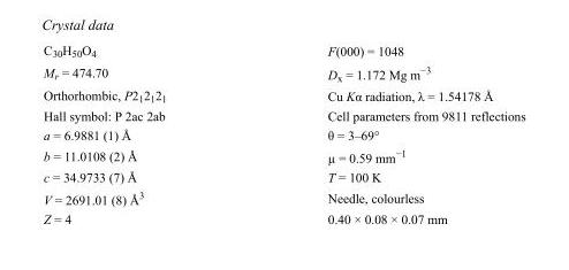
<table><tbody><tr><td>C<sub>30</sub>H<sub>50</sub>O<sub>4</sub></td><td>F(000) = 1048</td></tr><tr><td>M<sub>r</sub> = 474.70</td><td>D<sub>x</sub> = 1.172 Mg m<sup>−3</sup></td></tr><tr><td>Orthorhombic, P2<sub>1</sub>2<sub>1</sub>2<sub>1</sub></td><td>Cu Kα radiation, λ = 1.54178 Å</td></tr><tr><td>Hall symbol: P 2ac 2ab</td><td>Cell parameters from 9811 reflections</td></tr><tr><td>a = 6.9881 (1) Å</td><td>θ = 3–69°</td></tr><tr><td>b = 11.0108 (2) Å</td><td>µ = 0.59 mm<sup>−1</sup></td></tr><tr><td>c = 34.9733 (7) Å</td><td>T = 100 K</td></tr><tr><td>V = 2691.01 (8) Å<sup>3</sup></td><td>Needle, colourless</td></tr><tr><td>Z = 4</td><td>0.40 × 0.08 × 0.07 mm</td></tr></tbody></table>